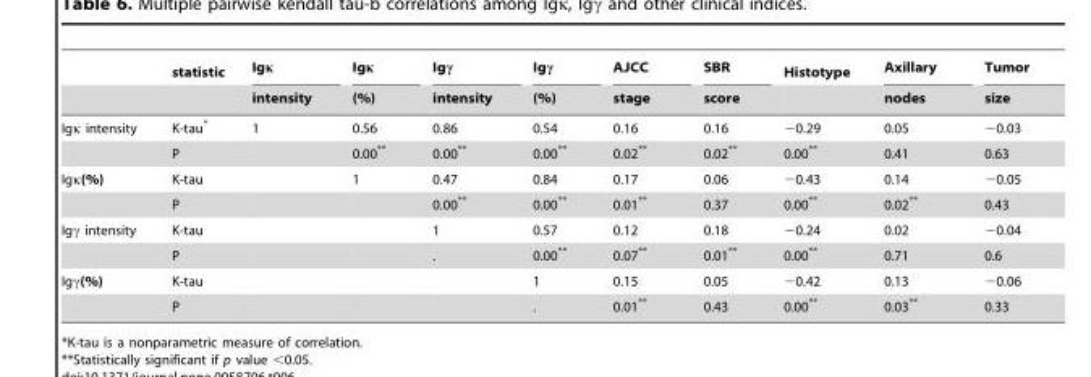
<table><thead><tr><td rowspan="2"></td><td rowspan="2">statistic</td><td rowspan="2">Igκ intensity</td><td rowspan="2">Igκ (%)</td><td rowspan="2">Igγ intensity</td><td rowspan="2">Igγ (%)</td><td rowspan="2">AJCC stage</td><td rowspan="2">SBR score</td><td rowspan="2">Histotype</td><td rowspan="2">Axillary nodes</td><td rowspan="2">Tumor size</td></tr><tr></tr></thead><tbody><tr><td rowspan="2">Igκ intensity</td><td>K-tau*</td><td>1</td><td>0.56</td><td>0.86</td><td>0.54</td><td>0.16</td><td>0.16</td><td>−0.29</td><td>0.05</td><td>−0.03</td></tr><tr><td>P</td><td></td><td>0.00**</td><td>0.00**</td><td>0.00**</td><td>0.02**</td><td>0.02**</td><td>0.00**</td><td>0.41</td><td>0.63</td></tr><tr><td rowspan="2">Igκ(%)</td><td>K-tau</td><td></td><td>1</td><td>0.47</td><td>0.84</td><td>0.17</td><td>0.06</td><td>−0.43</td><td>0.14</td><td>−0.05</td></tr><tr><td>P</td><td></td><td></td><td>0.00**</td><td>0.00**</td><td>0.01**</td><td>0.37</td><td>0.00**</td><td>0.02**</td><td>0.43</td></tr><tr><td rowspan="2">Igγ intensity</td><td>K-tau</td><td></td><td></td><td>1</td><td>0.57</td><td>0.12</td><td>0.18</td><td>−0.24</td><td>0.02</td><td>−0.04</td></tr><tr><td>P</td><td></td><td></td><td>.</td><td>0.00**</td><td>0.07**</td><td>0.01**</td><td>0.00**</td><td>0.71</td><td>0.6</td></tr><tr><td rowspan="2">Igγ(%)</td><td>K-tau</td><td></td><td></td><td></td><td>1</td><td>0.15</td><td>0.05</td><td>−0.42</td><td>0.13</td><td>−0.06</td></tr><tr><td>P</td><td></td><td></td><td></td><td>.</td><td>0.01**</td><td>0.43</td><td>0.00**</td><td>0.03**</td><td>0.33</td></tr></tbody></table>